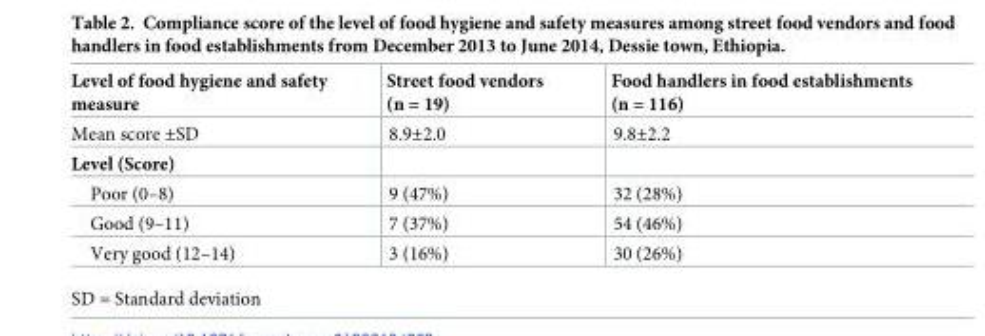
<table><thead><tr><td>Level of food hygiene and safety measure</td><td>Street food vendors (n = 19)</td><td>Food handlers in food establishments (n = 116)</td></tr></thead><tbody><tr><td>Mean score ±SD</td><td>8.9±2.0</td><td>9.8±2.2</td></tr><tr><td colspan="3">Level (Score)</td></tr><tr><td>Poor (0–8)</td><td>9 (47%)</td><td>32 (28%)</td></tr><tr><td>Good (9–11)</td><td>7 (37%)</td><td>54 (46%)</td></tr><tr><td>Very good (12–14)</td><td>3 (16%)</td><td>30 (26%)</td></tr></tbody></table>